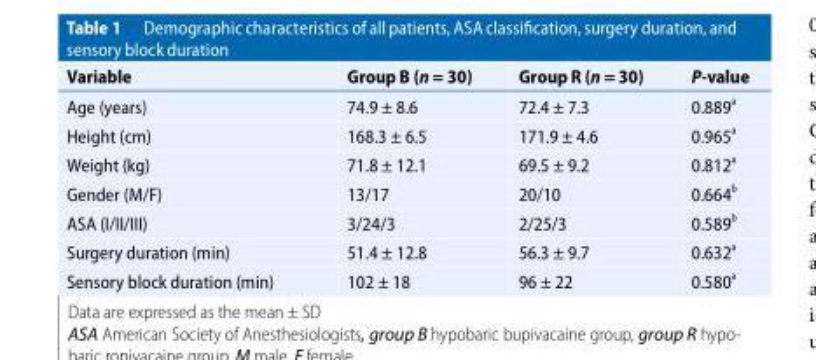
<table><thead><tr><td>Variable</td><td>Group B (n = 30)</td><td>Group R (n = 30)</td><td>P-value</td></tr></thead><tbody><tr><td>Age (years)</td><td>74.9 ± 8.6</td><td>72.4 ± 7.3</td><td>0.889 <sup>a</sup></td></tr><tr><td>Height (cm)</td><td>168.3 ± 6.5</td><td>171.9 ± 4.6</td><td>0.965 <sup>a</sup></td></tr><tr><td>Weight (kg)</td><td>71.8 ± 12.1</td><td>69.5 ± 9.2</td><td>0.812 <sup>a</sup></td></tr><tr><td>Gender (M/F)</td><td>13/17</td><td>20/10</td><td>0.664 <sup>b</sup></td></tr><tr><td>ASA (I/II/III)</td><td>3/24/3</td><td>2/25/3</td><td>0.589 <sup>b</sup></td></tr><tr><td>Surgery duration (min)</td><td>51.4 ± 12.8</td><td>56.3 ± 9.7</td><td>0.632 <sup>a</sup></td></tr><tr><td>Sensory block duration (min)</td><td>102 ± 18</td><td>96 ± 22</td><td>0.580 <sup>a</sup></td></tr></tbody></table>